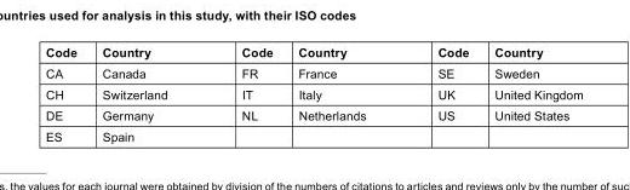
<table><thead><tr><td>Code</td><td>Country</td><td>Code</td><td>Country</td><td>Code</td><td>Country</td></tr></thead><tbody><tr><td>CA</td><td>Canada</td><td>FR</td><td>France</td><td>SE</td><td>Sweden</td></tr><tr><td>CH</td><td>Switzerland</td><td>IT</td><td>Italy</td><td>UK</td><td>United Kingdom</td></tr><tr><td>DE</td><td>Germany</td><td>NL</td><td>Netherlands</td><td>US</td><td>United States</td></tr><tr><td>ES</td><td>Spain</td><td></td><td></td><td></td><td></td></tr></tbody></table>